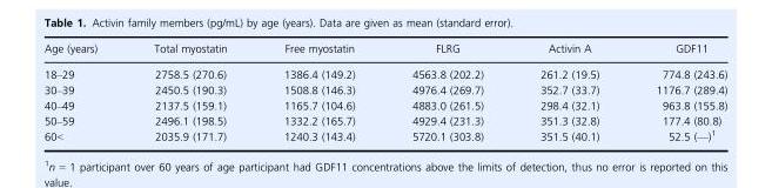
<table><thead><tr><td>Age (years)</td><td>Total myostatin</td><td>Free myostatin</td><td>FLRG</td><td>Activin A</td><td>GDF11</td></tr></thead><tbody><tr><td>18–29</td><td>2758.5 (270.6)</td><td>1386.4 (149.2)</td><td>4563.8 (202.2)</td><td>261.2 (19.5)</td><td>774.8 (243.6)</td></tr><tr><td>30–39</td><td>2450.5 (190.3)</td><td>1508.8 (146.3)</td><td>4976.4 (269.7)</td><td>352.7 (33.7)</td><td>1176.7 (289.4)</td></tr><tr><td>40–49</td><td>2137.5 (159.1)</td><td>1165.7 (104.6)</td><td>4883.0 (261.5)</td><td>298.4 (32.1)</td><td>963.8 (155.8)</td></tr><tr><td>50–59</td><td>2496.1 (198.5)</td><td>1332.2 (165.7)</td><td>4929.4 (231.3)</td><td>351.3 (32.8)</td><td>177.4 (80.8)</td></tr><tr><td>60&lt;</td><td>2035.9 (171.7)</td><td>1240.3 (143.4)</td><td>5720.1 (303.8)</td><td>351.5 (40.1)</td><td>52.5 (—)1</td></tr></tbody></table>